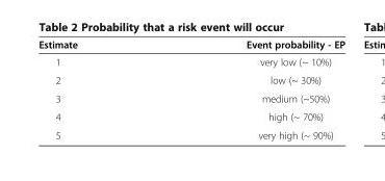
<table><thead><tr><td>Estimate</td><td>Event probability - EP</td></tr></thead><tbody><tr><td>1</td><td>very low (~ 10%)</td></tr><tr><td>2</td><td>low (~ 30%)</td></tr><tr><td>3</td><td>medium (~50%)</td></tr><tr><td>4</td><td>high (~ 70%)</td></tr><tr><td>5</td><td>very high (~ 90%)</td></tr></tbody></table>